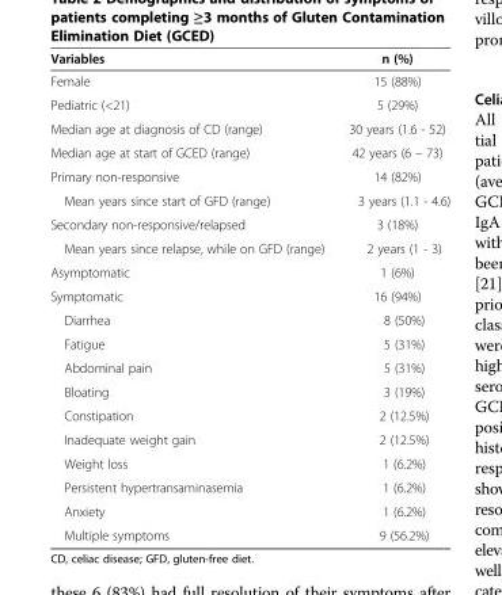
<table><thead><tr><td>Variables</td><td>n (%)</td></tr></thead><tbody><tr><td>Female</td><td>15 (88%)</td></tr><tr><td>Pediatric (&lt;21)</td><td>5 (29%)</td></tr><tr><td>Median age at diagnosis of CD (range)</td><td>30 years (1.6 - 52)</td></tr><tr><td>Median age at start of GCED (range)</td><td>42 years (6 – 73)</td></tr><tr><td>Primary non-responsive</td><td>14 (82%)</td></tr><tr><td>Mean years since start of GFD (range)</td><td>3 years (1.1 - 4.6)</td></tr><tr><td>Secondary non-responsive/relapsed</td><td>3 (18%)</td></tr><tr><td>Mean years since relapse, while on GFD (range)</td><td>2 years (1 - 3)</td></tr><tr><td>Asymptomatic</td><td>1 (6%)</td></tr><tr><td>Symptomatic</td><td>16 (94%)</td></tr><tr><td>Diarrhea</td><td>8 (50%)</td></tr><tr><td>Fatigue</td><td>5 (31%)</td></tr><tr><td>Abdominal pain</td><td>5 (31%)</td></tr><tr><td>Bloating</td><td>3 (19%)</td></tr><tr><td>Constipation</td><td>2 (12.5%)</td></tr><tr><td>Inadequate weight gain</td><td>2 (12.5%)</td></tr><tr><td>Weight loss</td><td>1 (6.2%)</td></tr><tr><td>Persistent hypertransaminasemia</td><td>1 (6.2%)</td></tr><tr><td>Anxiety</td><td>1 (6.2%)</td></tr><tr><td>Multiple symptoms</td><td>9 (56.2%)</td></tr></tbody></table>